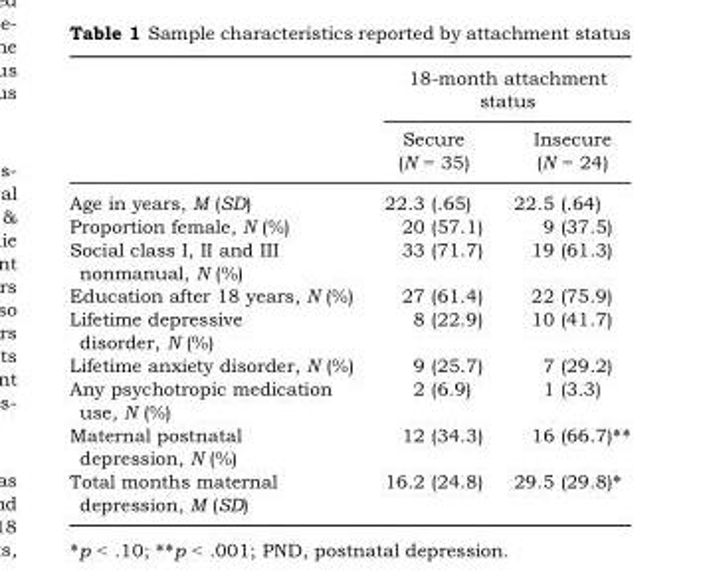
<table><thead><tr><td rowspan="2"></td><td colspan="2">18-month attachment status</td></tr><tr><td>Secure (N = 35)</td><td>Insecure (N = 24)</td></tr></thead><tbody><tr><td>Age in years, M (SD)</td><td>22.3 (.65)</td><td>22.5 (.64)</td></tr><tr><td>Proportion female, N (%)</td><td>20 (57.1)</td><td>9 (37.5)</td></tr><tr><td>Social class I, II and III nonmanual, N (%)</td><td>33 (71.7)</td><td>19 (61.3)</td></tr><tr><td>Education after 18 years, N (%)</td><td>27 (61.4)</td><td>22 (75.9)</td></tr><tr><td>Lifetime depressive disorder, N (%)</td><td>8 (22.9)</td><td>10 (41.7)</td></tr><tr><td>Lifetime anxiety disorder, N (%)</td><td>9 (25.7)</td><td>7 (29.2)</td></tr><tr><td>Any psychotropic medication use, N (%)</td><td>2 (6.9)</td><td>1 (3.3)</td></tr><tr><td>Maternal postnatal depression, N (%)</td><td>12 (34.3)</td><td>16 (66.7)**</td></tr><tr><td>Total months maternal depression, M (SD)</td><td>16.2 (24.8)</td><td>29.5 (29.8)*</td></tr></tbody></table>